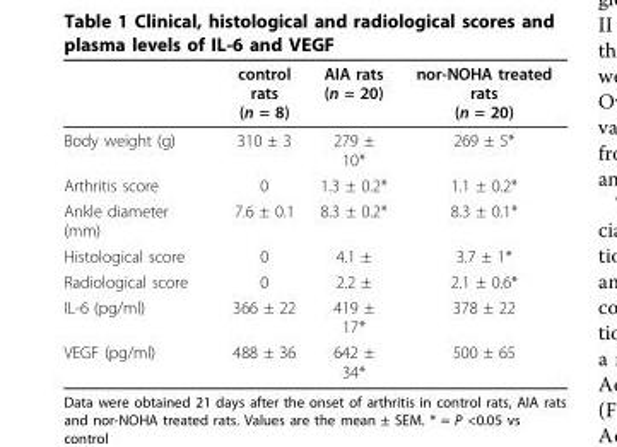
<table><thead><tr><td></td><td>control rats (n = 8)</td><td>AIA rats (n = 20)</td><td>nor-NOHA treated rats (n = 20)</td></tr></thead><tbody><tr><td>Body weight (g)</td><td>310 ± 3</td><td>279 ± 10*</td><td>269 ± 5*</td></tr><tr><td>Arthritis score</td><td>0</td><td>1.3 ± 0.2*</td><td>1.1 ± 0.2*</td></tr><tr><td>Ankle diameter (mm)</td><td>7.6 ± 0.1</td><td>8.3 ± 0.2*</td><td>8.3 ± 0.1*</td></tr><tr><td>Histological score</td><td>0</td><td>4.1 ±</td><td>3.7 ± 1*</td></tr><tr><td>Radiological score</td><td>0</td><td>2.2 ±</td><td>2.1 ± 0.6*</td></tr><tr><td>IL-6 (pg/ml)</td><td>366 ± 22</td><td>419 ± 17*</td><td>378 ± 22</td></tr><tr><td>VEGF (pg/ml)</td><td>488 ± 36</td><td>642 ± 34*</td><td>500 ± 65</td></tr></tbody></table>